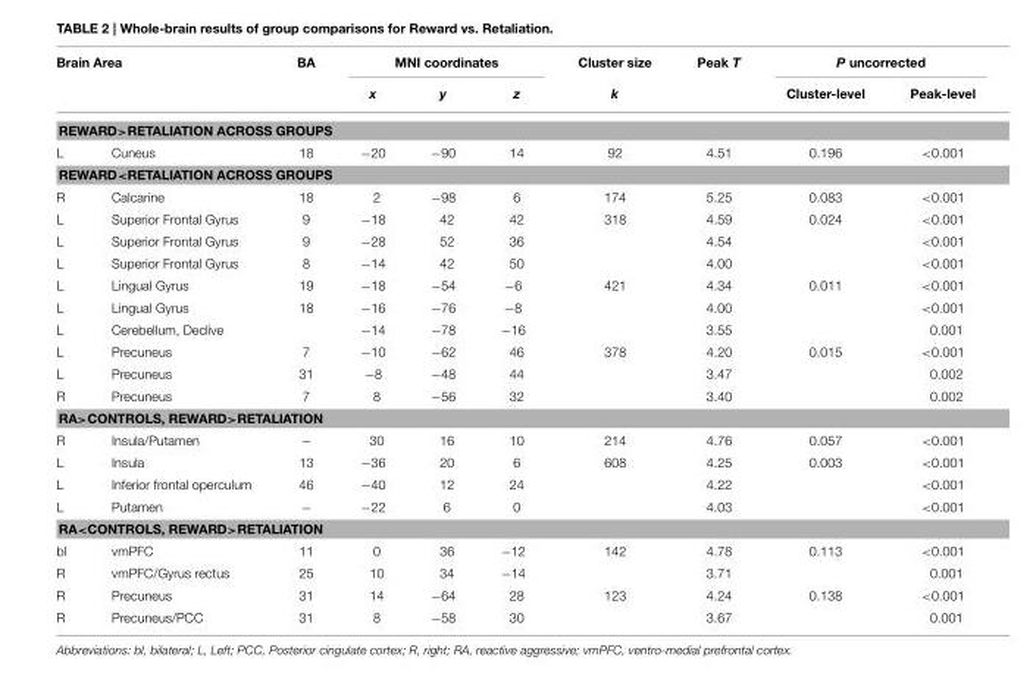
<table><thead><tr><td colspan="2">Brain Area</td><td rowspan="2">BA</td><td colspan="3">MNI coordinates</td><td rowspan="2">Cluster size k</td><td rowspan="2">Peak T</td><td colspan="2">P uncorrected</td></tr><tr><td></td><td></td><td>x</td><td>y</td><td>z</td><td>Cluster-level</td><td>Peak-level</td></tr></thead><tbody><tr><td colspan="10">REWARD&gt;RETALIATION ACROSS GROUPS</td></tr><tr><td>L</td><td>Cuneus</td><td>18</td><td>−20</td><td>−90</td><td>14</td><td>92</td><td>4.51</td><td>0.196</td><td>&lt;0.001</td></tr><tr><td colspan="10">REWARD&lt;RETALIATION ACROSS GROUPS</td></tr><tr><td>R</td><td>Calcarine</td><td>18</td><td>2</td><td>−98</td><td>6</td><td>174</td><td>5.25</td><td>0.083</td><td>&lt;0.001</td></tr><tr><td>L</td><td>Superior Frontal Gyrus</td><td>9</td><td>−18</td><td>42</td><td>42</td><td>318</td><td>4.59</td><td>0.024</td><td>&lt;0.001</td></tr><tr><td>L</td><td>Superior Frontal Gyrus</td><td>9</td><td>−28</td><td>52</td><td>36</td><td></td><td>4.54</td><td></td><td>&lt;0.001</td></tr><tr><td>L</td><td>Superior Frontal Gyrus</td><td>8</td><td>−14</td><td>42</td><td>50</td><td></td><td>4.00</td><td></td><td>&lt;0.001</td></tr><tr><td>L</td><td>Lingual Gyrus</td><td>19</td><td>−18</td><td>−54</td><td>−6</td><td>421</td><td>4.34</td><td>0.011</td><td>&lt;0.001</td></tr><tr><td>L</td><td>Lingual Gyrus</td><td>18</td><td>−16</td><td>−76</td><td>−8</td><td></td><td>4.00</td><td></td><td>&lt;0.001</td></tr><tr><td>L</td><td>Cerebellum, Declive</td><td></td><td>−14</td><td>−78</td><td>−16</td><td></td><td>3.55</td><td></td><td>0.001</td></tr><tr><td>L</td><td>Precuneus</td><td>7</td><td>−10</td><td>−62</td><td>46</td><td>378</td><td>4.20</td><td>0.015</td><td>&lt;0.001</td></tr><tr><td>L</td><td>Precuneus</td><td>31</td><td>−8</td><td>−48</td><td>44</td><td></td><td>3.47</td><td></td><td>0.002</td></tr><tr><td>R</td><td>Precuneus</td><td>7</td><td>8</td><td>−56</td><td>32</td><td></td><td>3.40</td><td></td><td>0.002</td></tr><tr><td colspan="10">RA&gt;CONTROLS, REWARD&gt;RETALIATION</td></tr><tr><td>R</td><td>Insula/Putamen</td><td>−</td><td>30</td><td>16</td><td>10</td><td>214</td><td>4.76</td><td>0.057</td><td>&lt;0.001</td></tr><tr><td>L</td><td>Insula</td><td>13</td><td>−36</td><td>20</td><td>6</td><td>608</td><td>4.25</td><td>0.003</td><td>&lt;0.001</td></tr><tr><td>L</td><td>Inferior frontal operculum</td><td>46</td><td>−40</td><td>12</td><td>24</td><td></td><td>4.22</td><td></td><td>&lt;0.001</td></tr><tr><td>L</td><td>Putamen</td><td>−</td><td>−22</td><td>6</td><td>0</td><td></td><td>4.03</td><td></td><td>&lt;0.001</td></tr><tr><td colspan="10">RA&lt;CONTROLS, REWARD&gt;RETALIATION</td></tr><tr><td>bl</td><td>vmPFC</td><td>11</td><td>0</td><td>36</td><td>−12</td><td>142</td><td>4.78</td><td>0.113</td><td>&lt;0.001</td></tr><tr><td>R</td><td>vmPFC/Gyrus rectus</td><td>25</td><td>10</td><td>34</td><td>−14</td><td></td><td>3.71</td><td></td><td>0.001</td></tr><tr><td>R</td><td>Precuneus</td><td>31</td><td>14</td><td>−64</td><td>28</td><td>123</td><td>4.24</td><td>0.138</td><td>&lt;0.001</td></tr><tr><td>R</td><td>Precuneus/PCC</td><td>31</td><td>8</td><td>−58</td><td>30</td><td></td><td>3.67</td><td></td><td>0.001</td></tr></tbody></table>